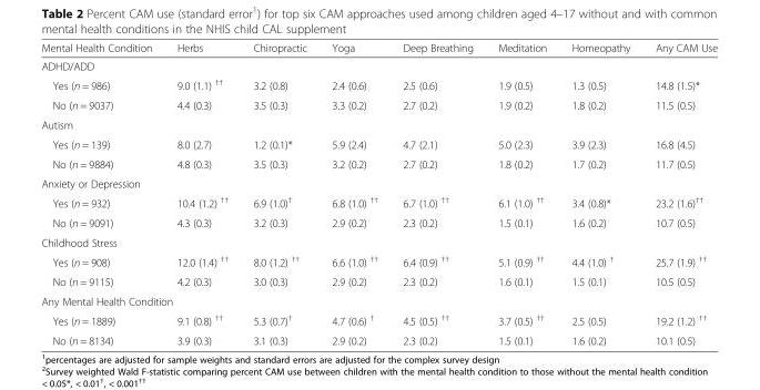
<table><thead><tr><td>Mental Health Condition</td><td>Herbs</td><td>Chiropractic</td><td>Yoga</td><td>Deep Breathing</td><td>Meditation</td><td>Homeopathy</td><td>Any CAM Use</td></tr></thead><tbody><tr><td colspan="8">ADHD/ADD</td></tr><tr><td>Yes (n = 986)</td><td>9.0 (1.1) <sup>††</sup></td><td>3.2 (0.8)</td><td>2.4 (0.6)</td><td>2.5 (0.6)</td><td>1.9 (0.5)</td><td>1.3 (0.5)</td><td>14.8 (1.5)*</td></tr><tr><td>No (n = 9037)</td><td>4.4 (0.3)</td><td>3.5 (0.3)</td><td>3.3 (0.2)</td><td>2.7 (0.2)</td><td>1.9 (0.2)</td><td>1.8 (0.2)</td><td>11.5 (0.5)</td></tr><tr><td colspan="8">Autism</td></tr><tr><td>Yes (n = 139)</td><td>8.0 (2.7)</td><td>1.2 (0.1)*</td><td>5.9 (2.4)</td><td>4.7 (2.1)</td><td>5.0 (2.3)</td><td>3.9 (2.3)</td><td>16.8 (4.5)</td></tr><tr><td>No (n = 9884)</td><td>4.8 (0.3)</td><td>3.5 (0.3)</td><td>3.2 (0.2)</td><td>2.7 (0.2)</td><td>1.8 (0.2)</td><td>1.7 (0.2)</td><td>11.7 (0.5)</td></tr><tr><td colspan="8">Anxiety or Depression</td></tr><tr><td>Yes (n = 932)</td><td>10.4 (1.2) <sup>††</sup></td><td>6.9 (1.0)<sup>†</sup></td><td>6.8 (1.0) <sup>††</sup></td><td>6.7 (1.0) <sup>††</sup></td><td>6.1 (1.0) <sup>††</sup></td><td>3.4 (0.8)*</td><td>23.2 (1.6)<sup>††</sup></td></tr><tr><td>No (n = 9091)</td><td>4.3 (0.3)</td><td>3.2 (0.3)</td><td>2.9 (0.2)</td><td>2.3 (0.2)</td><td>1.5 (0.1)</td><td>1.6 (0.2)</td><td>10.7 (0.5)</td></tr><tr><td colspan="8">Childhood Stress</td></tr><tr><td>Yes (n = 908)</td><td>12.0 (1.4) <sup>††</sup></td><td>8.0 (1.2) <sup>††</sup></td><td>6.6 (1.0) <sup>††</sup></td><td>6.4 (0.9) <sup>††</sup></td><td>5.1 (0.9) <sup>††</sup></td><td>4.4 (1.0) <sup>†</sup></td><td>25.7 (1.9) <sup>††</sup></td></tr><tr><td>No (n = 9115)</td><td>4.2 (0.3)</td><td>3.0 (0.3)</td><td>2.9 (0.2)</td><td>2.3 (0.2)</td><td>1.6 (0.1)</td><td>1.5 (0.1)</td><td>10.5 (0.5)</td></tr><tr><td colspan="8">Any Mental Health Condition</td></tr><tr><td>Yes (n = 1889)</td><td>9.1 (0.8) <sup>††</sup></td><td>5.3 (0.7)<sup>†</sup></td><td>4.7 (0.6) <sup>†</sup></td><td>4.5 (0.5) <sup>††</sup></td><td>3.7 (0.5) <sup>††</sup></td><td>2.5 (0.5)</td><td>19.2 (1.2) <sup>††</sup></td></tr><tr><td>No (n = 8134)</td><td>3.9 (0.3)</td><td>3.1 (0.3)</td><td>2.9 (0.2)</td><td>2.3 (0.2)</td><td>1.5 (0.1)</td><td>1.6 (0.2)</td><td>10.1 (0.5)</td></tr></tbody></table>